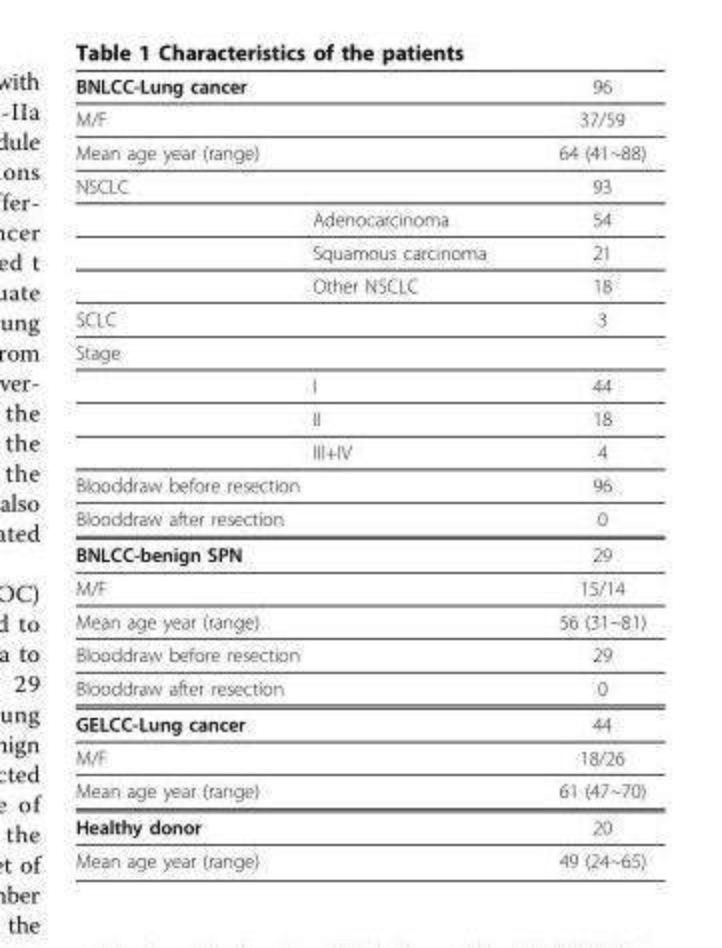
<table><thead><tr><td>BNLCC-Lung cancer</td><td></td><td>96</td></tr></thead><tbody><tr><td>M/F</td><td></td><td>37/59</td></tr><tr><td>Mean age year (range)</td><td></td><td>64 (41~88)</td></tr><tr><td rowspan="4">NSCLC</td><td></td><td>93</td></tr><tr><td>Adenocarcinoma</td><td>54</td></tr><tr><td>Squamous carcinoma</td><td>21</td></tr><tr><td>Other NSCLC</td><td>18</td></tr><tr><td>SCLC</td><td></td><td>3</td></tr><tr><td colspan="3">Stage</td></tr><tr><td></td><td>I</td><td>44</td></tr><tr><td></td><td>II</td><td>18</td></tr><tr><td></td><td>III+IV</td><td>4</td></tr><tr><td colspan="2">Blooddraw before resection</td><td>96</td></tr><tr><td colspan="2">Blooddraw after resection</td><td>0</td></tr><tr><td>BNLCC-benign SPN</td><td></td><td>29</td></tr><tr><td>M/F</td><td></td><td>15/14</td></tr><tr><td>Mean age year (range)</td><td></td><td>56 (31~81)</td></tr><tr><td colspan="2">Blooddraw before resection</td><td>29</td></tr><tr><td colspan="2">Blooddraw after resection</td><td>0</td></tr><tr><td>GELCC-Lung cancer</td><td></td><td>44</td></tr><tr><td>M/F</td><td></td><td>18/26</td></tr><tr><td>Mean age year (range)</td><td></td><td>61 (47~70)</td></tr><tr><td>Healthy donor</td><td></td><td>20</td></tr><tr><td>Mean age year (range)</td><td></td><td>49 (24~65)</td></tr></tbody></table>